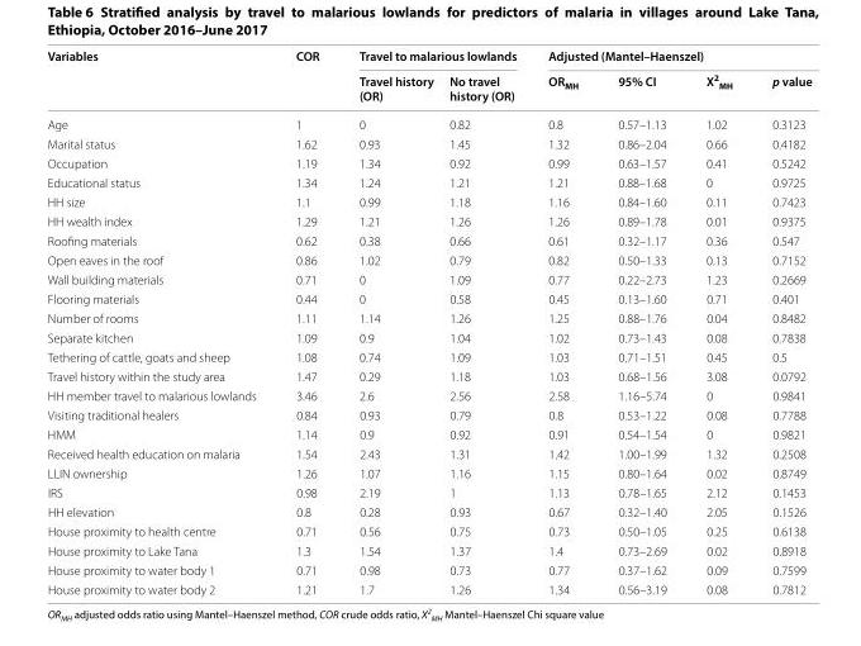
<table><thead><tr><td rowspan="2">Variables</td><td rowspan="2">COR</td><td colspan="2">Travel to malarious lowlands</td><td colspan="4">Adjusted (Mantel–Haenszel)</td></tr><tr><td>Travel history (OR)</td><td>No travel history (OR)</td><td>OR<sub>MH</sub></td><td>95% CI</td><td>X<sup>2</sup> <sub>MH</sub></td><td>p value</td></tr></thead><tbody><tr><td>Age</td><td>1</td><td>0</td><td>0.82</td><td>0.8</td><td>0.57–1.13</td><td>1.02</td><td>0.3123</td></tr><tr><td>Marital status</td><td>1.62</td><td>0.93</td><td>1.45</td><td>1.32</td><td>0.86–2.04</td><td>0.66</td><td>0.4182</td></tr><tr><td>Occupation</td><td>1.19</td><td>1.34</td><td>0.92</td><td>0.99</td><td>0.63–1.57</td><td>0.41</td><td>0.5242</td></tr><tr><td>Educational status</td><td>1.34</td><td>1.24</td><td>1.21</td><td>1.21</td><td>0.88–1.68</td><td>0</td><td>0.9725</td></tr><tr><td>HH size</td><td>1.1</td><td>0.99</td><td>1.18</td><td>1.16</td><td>0.84–1.60</td><td>0.11</td><td>0.7423</td></tr><tr><td>HH wealth index</td><td>1.29</td><td>1.21</td><td>1.26</td><td>1.26</td><td>0.89–1.78</td><td>0.01</td><td>0.9375</td></tr><tr><td>Roofing materials</td><td>0.62</td><td>0.38</td><td>0.66</td><td>0.61</td><td>0.32–1.17</td><td>0.36</td><td>0.547</td></tr><tr><td>Open eaves in the roof</td><td>0.86</td><td>1.02</td><td>0.79</td><td>0.82</td><td>0.50–1.33</td><td>0.13</td><td>0.7152</td></tr><tr><td>Wall building materials</td><td>0.71</td><td>0</td><td>1.09</td><td>0.77</td><td>0.22–2.73</td><td>1.23</td><td>0.2669</td></tr><tr><td>Flooring materials</td><td>0.44</td><td>0</td><td>0.58</td><td>0.45</td><td>0.13–1.60</td><td>0.71</td><td>0.401</td></tr><tr><td>Number of rooms</td><td>1.11</td><td>1.14</td><td>1.26</td><td>1.25</td><td>0.88–1.76</td><td>0.04</td><td>0.8482</td></tr><tr><td>Separate kitchen</td><td>1.09</td><td>0.9</td><td>1.04</td><td>1.02</td><td>0.73–1.43</td><td>0.08</td><td>0.7838</td></tr><tr><td>Tethering of cattle, goats and sheep</td><td>1.08</td><td>0.74</td><td>1.09</td><td>1.03</td><td>0.71–1.51</td><td>0.45</td><td>0.5</td></tr><tr><td>Travel history within the study area</td><td>1.47</td><td>0.29</td><td>1.18</td><td>1.03</td><td>0.68–1.56</td><td>3.08</td><td>0.0792</td></tr><tr><td>HH member travel to malarious lowlands</td><td>3.46</td><td>2.6</td><td>2.56</td><td>2.58</td><td>1.16–5.74</td><td>0</td><td>0.9841</td></tr><tr><td>Visiting traditional healers</td><td>0.84</td><td>0.93</td><td>0.79</td><td>0.8</td><td>0.53–1.22</td><td>0.08</td><td>0.7788</td></tr><tr><td>HMM</td><td>1.14</td><td>0.9</td><td>0.92</td><td>0.91</td><td>0.54–1.54</td><td>0</td><td>0.9821</td></tr><tr><td>Received health education on malaria</td><td>1.54</td><td>2.43</td><td>1.31</td><td>1.42</td><td>1.00–1.99</td><td>1.32</td><td>0.2508</td></tr><tr><td>LLIN ownership</td><td>1.26</td><td>1.07</td><td>1.16</td><td>1.15</td><td>0.80–1.64</td><td>0.02</td><td>0.8749</td></tr><tr><td>IRS</td><td>0.98</td><td>2.19</td><td>1</td><td>1.13</td><td>0.78–1.65</td><td>2.12</td><td>0.1453</td></tr><tr><td>HH elevation</td><td>0.8</td><td>0.28</td><td>0.93</td><td>0.67</td><td>0.32–1.40</td><td>2.05</td><td>0.1526</td></tr><tr><td>House proximity to health centre</td><td>0.71</td><td>0.56</td><td>0.75</td><td>0.73</td><td>0.50–1.05</td><td>0.25</td><td>0.6138</td></tr><tr><td>House proximity to Lake Tana</td><td>1.3</td><td>1.54</td><td>1.37</td><td>1.4</td><td>0.73–2.69</td><td>0.02</td><td>0.8918</td></tr><tr><td>House proximity to water body 1</td><td>0.71</td><td>0.98</td><td>0.73</td><td>0.77</td><td>0.37–1.62</td><td>0.09</td><td>0.7599</td></tr><tr><td>House proximity to water body 2</td><td>1.21</td><td>1.7</td><td>1.26</td><td>1.34</td><td>0.56–3.19</td><td>0.08</td><td>0.7812</td></tr></tbody></table>